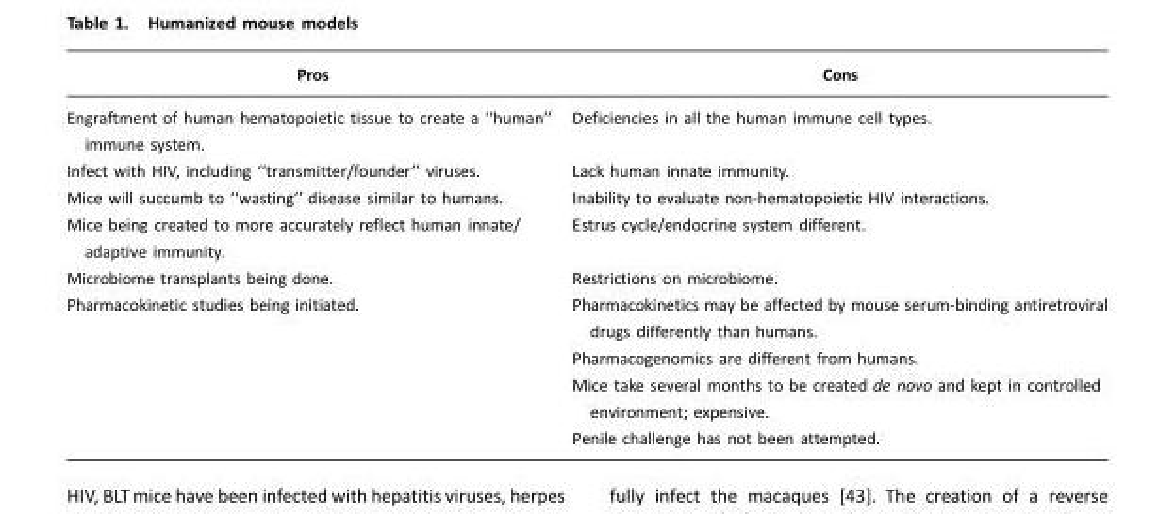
<table><thead><tr><td>Pros</td><td>Cons</td></tr></thead><tbody><tr><td>Engraftment of human hematopoietic tissue to create a ‘‘human’’ immune system.</td><td>Deficiencies in all the human immune cell types.</td></tr><tr><td>Infect with HIV, including ‘‘transmitter/founder’’ viruses.</td><td>Lack human innate immunity.</td></tr><tr><td>Mice will succumb to ‘‘wasting’’ disease similar to humans.</td><td>Inability to evaluate non-hematopoietic HIV interactions.</td></tr><tr><td>Mice being created to more accurately reflect human innate/ adaptive immunity.</td><td>Estrus cycle/endocrine system different.</td></tr><tr><td>Microbiome transplants being done.</td><td>Restrictions on microbiome.</td></tr><tr><td rowspan="4">Pharmacokinetic studies being initiated.</td><td>Pharmacokinetics may be affected by mouse serum-binding antiretroviral drugs differently than humans.</td></tr><tr><td>Pharmacogenomics are different from humans.</td></tr><tr><td>Mice take several months to be created de novo and kept in controlled environment; expensive.</td></tr><tr><td>Penile challenge has not been attempted.</td></tr></tbody></table>